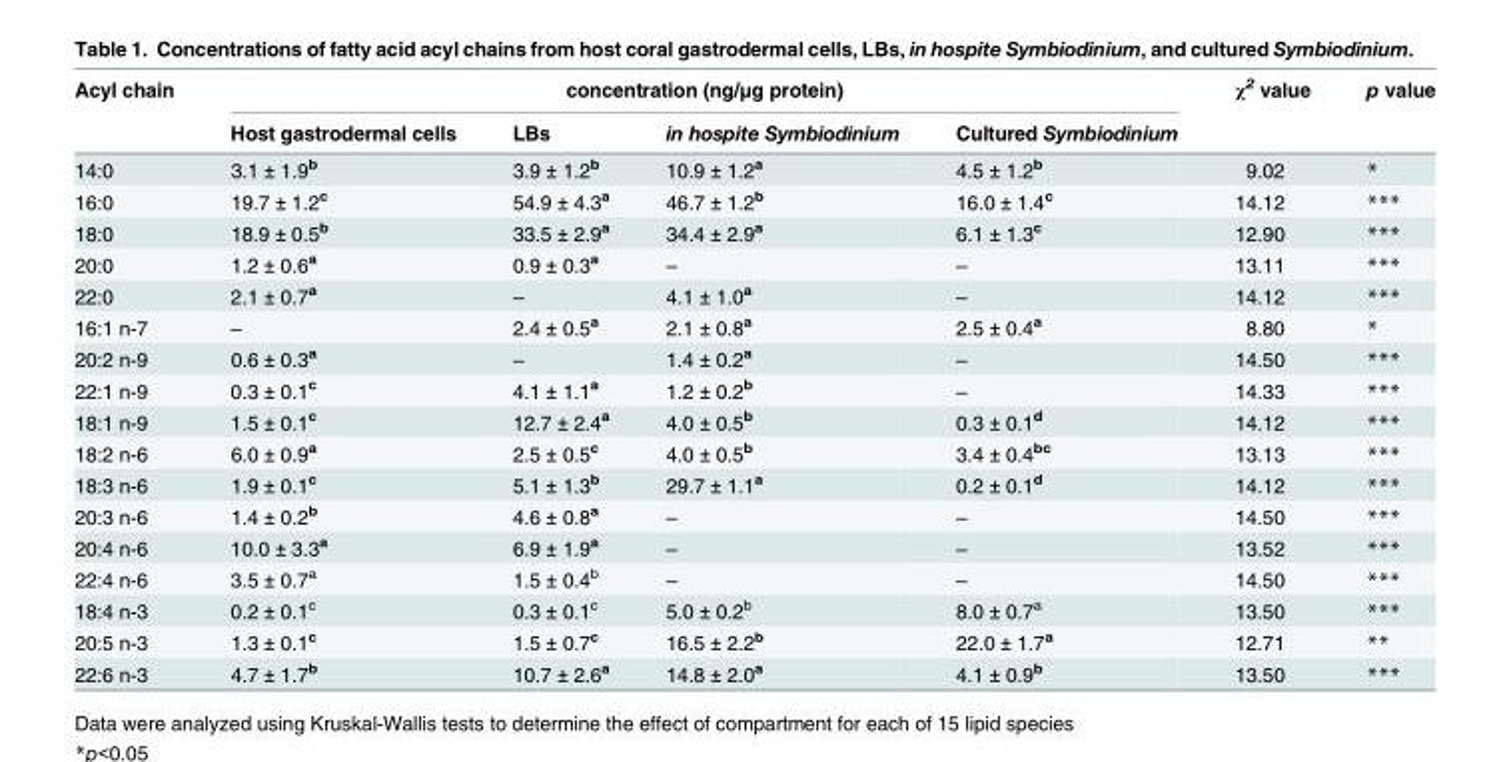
<table><thead><tr><td rowspan="2">Acyl chain</td><td colspan="4">concentration (ng/μg protein)</td><td rowspan="2">χ<sup>2</sup> value</td><td rowspan="2">p value</td></tr><tr><td>Host gastrodermal cells</td><td>LBs</td><td>in hospite Symbiodinium</td><td>Cultured Symbiodinium</td></tr></thead><tbody><tr><td>14:0</td><td>3.1 ± 1.9<sup>b</sup></td><td>3.9 ± 1.2<sup>b</sup></td><td>10.9 ± 1.2<sup>a</sup></td><td>4.5 ± 1.2<sup>b</sup></td><td>9.02</td><td>*</td></tr><tr><td>16:0</td><td>19.7 ± 1.2<sup>c</sup></td><td>54.9 ± 4.3<sup>a</sup></td><td>46.7 ± 1.2<sup>b</sup></td><td>16.0 ± 1.4<sup>c</sup></td><td>14.12</td><td>***</td></tr><tr><td>18:0</td><td>18.9 ± 0.5<sup>b</sup></td><td>33.5 ± 2.9<sup>a</sup></td><td>34.4 ± 2.9<sup>a</sup></td><td>6.1 ± 1.3<sup>c</sup></td><td>12.90</td><td>***</td></tr><tr><td>20:0</td><td>1.2 ± 0.6<sup>a</sup></td><td>0.9 ± 0.3<sup>a</sup></td><td>–</td><td>–</td><td>13.11</td><td>***</td></tr><tr><td>22:0</td><td>2.1 ± 0.7<sup>a</sup></td><td>–</td><td>4.1 ± 1.0<sup>a</sup></td><td>–</td><td>14.12</td><td>***</td></tr><tr><td>16:1 n-7</td><td>–</td><td>2.4 ± 0.5<sup>a</sup></td><td>2.1 ± 0.8<sup>a</sup></td><td>2.5 ± 0.4<sup>a</sup></td><td>8.80</td><td>*</td></tr><tr><td>20:2 n-9</td><td>0.6 ± 0.3<sup>a</sup></td><td>–</td><td>1.4 ± 0.2<sup>a</sup></td><td>–</td><td>14.50</td><td>***</td></tr><tr><td>22:1 n-9</td><td>0.3 ± 0.1<sup>c</sup></td><td>4.1 ± 1.1<sup>a</sup></td><td>1.2 ± 0.2<sup>b</sup></td><td>–</td><td>14.33</td><td>***</td></tr><tr><td>18:1 n-9</td><td>1.5 ± 0.1<sup>c</sup></td><td>12.7 ± 2.4<sup>a</sup></td><td>4.0 ± 0.5<sup>b</sup></td><td>0.3 ± 0.1<sup>d</sup></td><td>14.12</td><td>***</td></tr><tr><td>18:2 n-6</td><td>6.0 ± 0.9<sup>a</sup></td><td>2.5 ± 0.5<sup>c</sup></td><td>4.0 ± 0.5<sup>b</sup></td><td>3.4 ± 0.4<sup>bc</sup></td><td>13.13</td><td>***</td></tr><tr><td>18:3 n-6</td><td>1.9 ± 0.1<sup>c</sup></td><td>5.1 ± 1.3<sup>b</sup></td><td>29.7 ± 1.1<sup>a</sup></td><td>0.2 ± 0.1<sup>d</sup></td><td>14.12</td><td>***</td></tr><tr><td>20:3 n-6</td><td>1.4 ± 0.2<sup>b</sup></td><td>4.6 ± 0.8<sup>a</sup></td><td>–</td><td>–</td><td>14.50</td><td>***</td></tr><tr><td>20:4 n-6</td><td>10.0 ± 3.3<sup>a</sup></td><td>6.9 ± 1.9<sup>a</sup></td><td>–</td><td>–</td><td>13.52</td><td>***</td></tr><tr><td>22:4 n-6</td><td>3.5 ± 0.7<sup>a</sup></td><td>1.5 ± 0.4<sup>b</sup></td><td>–</td><td>–</td><td>14.50</td><td>***</td></tr><tr><td>18:4 n-3</td><td>0.2 ± 0.1<sup>c</sup></td><td>0.3 ± 0.1<sup>c</sup></td><td>5.0 ± 0.2<sup>b</sup></td><td>8.0 ± 0.7<sup>a</sup></td><td>13.50</td><td>***</td></tr><tr><td>20:5 n-3</td><td>1.3 ± 0.1<sup>c</sup></td><td>1.5 ± 0.7<sup>c</sup></td><td>16.5 ± 2.2<sup>b</sup></td><td>22.0 ± 1.7<sup>a</sup></td><td>12.71</td><td>**</td></tr><tr><td>22:6 n-3</td><td>4.7 ± 1.7<sup>b</sup></td><td>10.7 ± 2.6<sup>a</sup></td><td>14.8 ± 2.0<sup>a</sup></td><td>4.1 ± 0.9<sup>b</sup></td><td>13.50</td><td>***</td></tr></tbody></table>